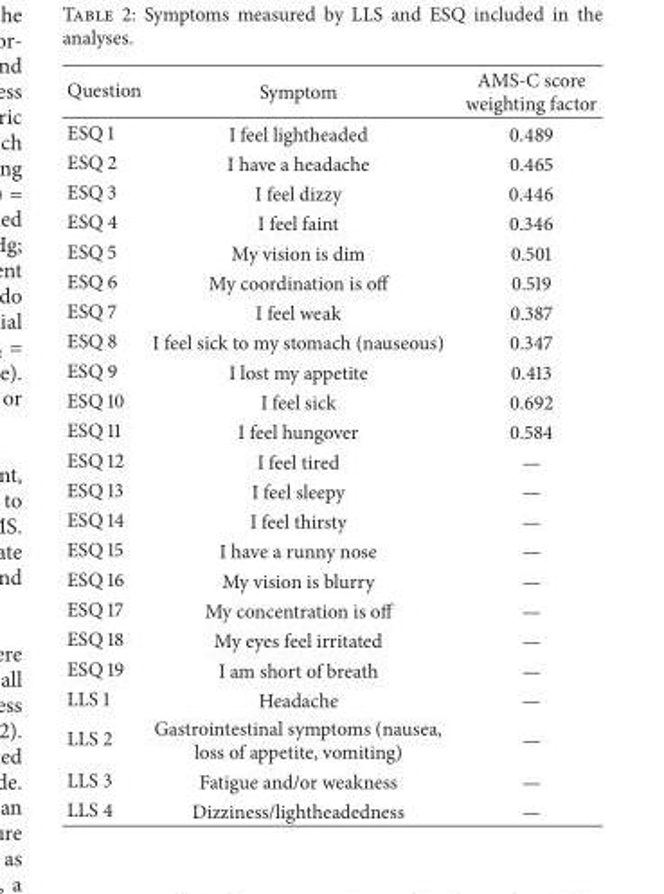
<table><thead><tr><td>Question</td><td>Symptom</td><td>AMS-C score weighting factor</td></tr></thead><tbody><tr><td>ESQ 1</td><td>I feel lightheaded</td><td>0.489</td></tr><tr><td>ESQ 2</td><td>I have a headache</td><td>0.465</td></tr><tr><td>ESQ 3</td><td>I feel dizzy</td><td>0.446</td></tr><tr><td>ESQ 4</td><td>I feel faint</td><td>0.346</td></tr><tr><td>ESQ 5</td><td>My vision is dim</td><td>0.501</td></tr><tr><td>ESQ 6</td><td>My coordination is off</td><td>0.519</td></tr><tr><td>ESQ 7</td><td>I feel weak</td><td>0.387</td></tr><tr><td>ESQ 8</td><td>I feel sick to my stomach (nauseous)</td><td>0.347</td></tr><tr><td>ESQ 9</td><td>I lost my appetite</td><td>0.413</td></tr><tr><td>ESQ 10</td><td>I feel sick</td><td>0.692</td></tr><tr><td>ESQ 11</td><td>I feel hungover</td><td>0.584</td></tr><tr><td>ESQ 12</td><td>I feel tired</td><td>—</td></tr><tr><td>ESQ 13</td><td>I feel sleepy</td><td>—</td></tr><tr><td>ESQ 14</td><td>I feel thirsty</td><td>—</td></tr><tr><td>ESQ 15</td><td>I have a runny nose</td><td>—</td></tr><tr><td>ESQ 16</td><td>My vision is blurry</td><td>—</td></tr><tr><td>ESQ 17</td><td>My concentration is off</td><td>—</td></tr><tr><td>ESQ 18</td><td>My eyes feel irritated</td><td>—</td></tr><tr><td>ESQ 19</td><td>I am short of breath</td><td>—</td></tr><tr><td>LLS 1</td><td>Headache</td><td>—</td></tr><tr><td>LLS 2</td><td>Gastrointestinal symptoms (nausea, loss of appetite, vomiting)</td><td>—</td></tr><tr><td>LLS 3</td><td>Fatigue and/or weakness</td><td>—</td></tr><tr><td>LLS 4</td><td>Dizziness/lightheadedness</td><td>—</td></tr></tbody></table>